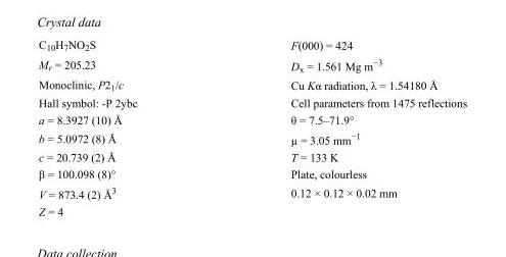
<table><tbody><tr><td>C<sub>10</sub>H<sub>7</sub>NO<sub>2</sub>S</td><td>F(000) = 424</td></tr><tr><td>M<sub>r</sub> = 205.23</td><td>D<sub>x</sub> = 1.561 Mg m<sup>−3</sup></td></tr><tr><td>Monoclinic, P2<sub>1</sub>/c</td><td>Cu Kα radiation, λ = 1.54180 Å</td></tr><tr><td>Hall symbol: -P 2ybc</td><td>Cell parameters from 1475 reflections</td></tr><tr><td>a = 8.3927 (10) Å</td><td>θ = 7.5–71.9°</td></tr><tr><td>b = 5.0972 (8) Å</td><td>µ = 3.05 mm<sup>−1</sup></td></tr><tr><td>c = 20.739 (2) Å</td><td>T = 133 K</td></tr><tr><td>β = 100.098 (8)°</td><td>Plate, colourless</td></tr><tr><td>V = 873.4 (2) Å<sup>3</sup></td><td>0.12 × 0.12 × 0.02 mm</td></tr><tr><td>Z = 4</td><td></td></tr></tbody></table>